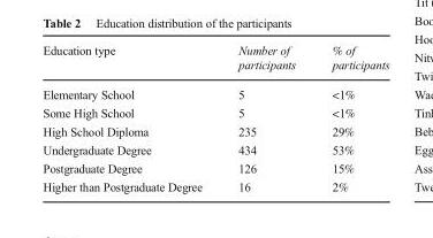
<table><thead><tr><td>Education type</td><td>Number of participants</td><td>% of participants</td></tr></thead><tbody><tr><td>Elementary School</td><td>5</td><td>&lt;1%</td></tr><tr><td>Some High School</td><td>5</td><td>&lt;1%</td></tr><tr><td>High School Diploma</td><td>235</td><td>29%</td></tr><tr><td>Undergraduate Degree</td><td>434</td><td>53%</td></tr><tr><td>Postgraduate Degree</td><td>126</td><td>15%</td></tr><tr><td>Higher than Postgraduate Degree</td><td>16</td><td>2%</td></tr></tbody></table>